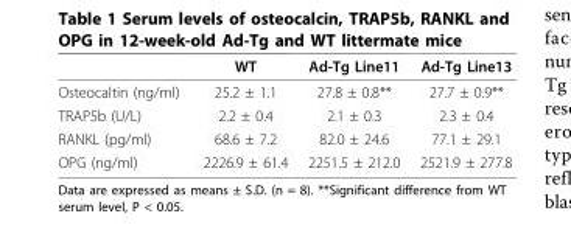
<table><thead><tr><td></td><td>WT</td><td>Ad-Tg Line11</td><td>Ad-Tg Line13</td></tr></thead><tbody><tr><td>Osteocaltin (ng/ml)</td><td>25.2 ± 1.1</td><td>27.8 ± 0.8**</td><td>27.7 ± 0.9**</td></tr><tr><td>TRAP5b (U/L)</td><td>2.2 ± 0.4</td><td>2.1 ± 0.3</td><td>2.3 ± 0.4</td></tr><tr><td>RANKL (pg/ml)</td><td>68.6 ± 7.2</td><td>82.0 ± 24.6</td><td>77.1 ± 29.1</td></tr><tr><td>OPG (ng/ml)</td><td>2226.9 ± 61.4</td><td>2251.5 ± 212.0</td><td>2521.9 ± 277.8</td></tr></tbody></table>